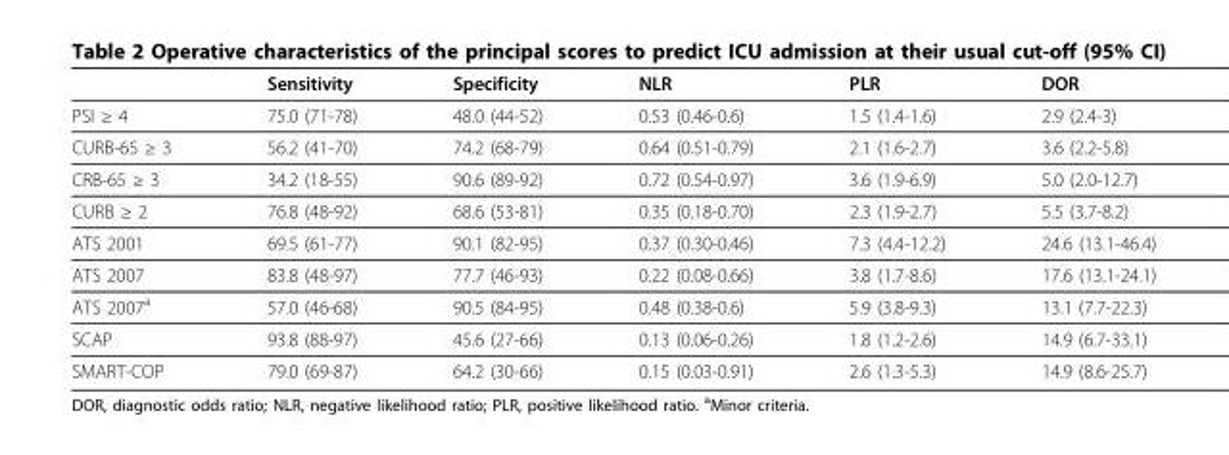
<table><thead><tr><td></td><td>Sensitivity</td><td>Specificity</td><td>NLR</td><td>PLR</td><td>DOR</td></tr></thead><tbody><tr><td>PSI ≥ 4</td><td>75.0 (71-78)</td><td>48.0 (44-52)</td><td>0.53 (0.46-0.6)</td><td>1.5 (1.4-1.6)</td><td>2.9 (2.4-3)</td></tr><tr><td>CURB-65 ≥ 3</td><td>56.2 (41-70)</td><td>74.2 (68-79)</td><td>0.64 (0.51-0.79)</td><td>2.1 (1.6-2.7)</td><td>3.6 (2.2-5.8)</td></tr><tr><td>CRB-65 ≥ 3</td><td>34.2 (18-55)</td><td>90.6 (89-92)</td><td>0.72 (0.54-0.97)</td><td>3.6 (1.9-6.9)</td><td>5.0 (2.0-12.7)</td></tr><tr><td>CURB ≥ 2</td><td>76.8 (48-92)</td><td>68.6 (53-81)</td><td>0.35 (0.18-0.70)</td><td>2.3 (1.9-2.7)</td><td>5.5 (3.7-8.2)</td></tr><tr><td>ATS 2001</td><td>69.5 (61-77)</td><td>90.1 (82-95)</td><td>0.37 (0.30-0.46)</td><td>7.3 (4.4-12.2)</td><td>24.6 (13.1-46.4)</td></tr><tr><td>ATS 2007</td><td>83.8 (48-97)</td><td>77.7 (46-93)</td><td>0.22 (0.08-0.66)</td><td>3.8 (1.7-8.6)</td><td>17.6 (13.1-24.1)</td></tr><tr><td>ATS 2007<sup>a</sup></td><td>57.0 (46-68)</td><td>90.5 (84-95)</td><td>0.48 (0.38-0.6)</td><td>5.9 (3.8-9.3)</td><td>13.1 (7.7-22.3)</td></tr><tr><td>SCAP</td><td>93.8 (88-97)</td><td>45.6 (27-66)</td><td>0.13 (0.06-0.26)</td><td>1.8 (1.2-2.6)</td><td>14.9 (6.7-33.1)</td></tr><tr><td>SMART-COP</td><td>79.0 (69-87)</td><td>64.2 (30-66)</td><td>0.15 (0.03-0.91)</td><td>2.6 (1.3-5.3)</td><td>14.9 (8.6-25.7)</td></tr></tbody></table>